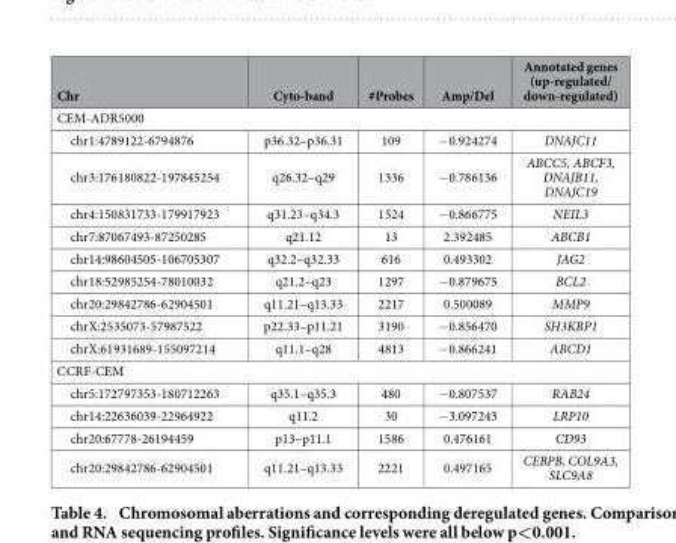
<table><thead><tr><td>Chr</td><td>Cyto-band</td><td>#Probes</td><td>Amp/Del</td><td>Annotated genes (up-regulated/ down-regulated)</td></tr></thead><tbody><tr><td colspan="5">CEM-ADR5000</td></tr><tr><td>chr1:4789122-6794876</td><td>p36.32–p36.31</td><td>109</td><td>− 0.924274</td><td>DNAJC11</td></tr><tr><td>chr3:176180822-197845254</td><td>q26.32–q29</td><td>1336</td><td>− 0.786136</td><td>ABCC5, ABCF3, DNAJB11, DNAJC19</td></tr><tr><td>chr4:150831733-179917923</td><td>q31.23–q34.3</td><td>1524</td><td>− 0.866775</td><td>NEIL3</td></tr><tr><td>chr7:87067493-87250285</td><td>q21.12</td><td>13</td><td>2.392485</td><td>ABCB1</td></tr><tr><td>chr14:98604505-106705307</td><td>q32.2–q32.33</td><td>616</td><td>0.493302</td><td>JAG2</td></tr><tr><td>chr18:52985254-78010032</td><td>q21.2–q23</td><td>1297</td><td>− 0.879675</td><td>BCL2</td></tr><tr><td>chr20:29842786-62904501</td><td>q11.21–q13.33</td><td>2217</td><td>0.500089</td><td>MMP9</td></tr><tr><td>chrX:2535073-57987522</td><td>p22.33–p11.21</td><td>3190</td><td>− 0.856470</td><td>SH3KBP1</td></tr><tr><td>chrX:61931689-155097214</td><td>q11.1–q28</td><td>4813</td><td>− 0.866241</td><td>ABCD1</td></tr><tr><td colspan="5">CCRF-CEM</td></tr><tr><td>chr5:172797353-180712263</td><td>q35.1–q35.3</td><td>480</td><td>− 0.807537</td><td>RAB24</td></tr><tr><td>chr14:22636039-22964922</td><td>q11.2</td><td>30</td><td>− 3.097243</td><td>LRP10</td></tr><tr><td>chr20:67778-26194459</td><td>p13–p11.1</td><td>1586</td><td>0.476161</td><td>CD93</td></tr><tr><td>chr20:29842786-62904501</td><td>q11.21–q13.33</td><td>2221</td><td>0.497165</td><td>CEBPB, COL9A3, SLC9A8</td></tr></tbody></table>